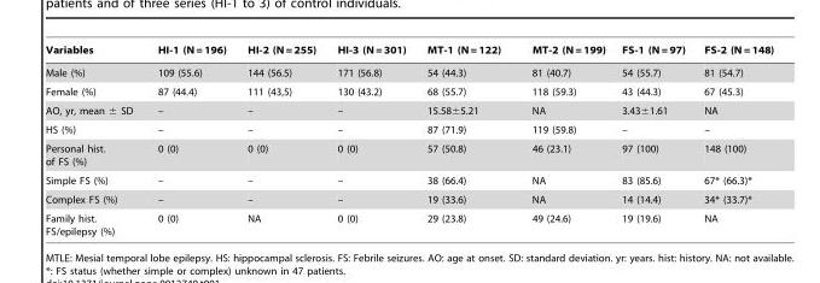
<table><thead><tr><td>Variables</td><td>HI-1 (N = 196)</td><td>HI-2 (N = 255)</td><td>HI-3 (N = 301)</td><td>MT-1 (N = 122)</td><td>MT-2 (N = 199)</td><td>FS-1 (N = 97)</td><td>FS-2 (N = 148)</td></tr></thead><tbody><tr><td>Male (%)</td><td>109 (55.6)</td><td>144 (56.5)</td><td>171 (56.8)</td><td>54 (44.3)</td><td>81 (40.7)</td><td>54 (55.7)</td><td>81 (54.7)</td></tr><tr><td>Female (%)</td><td>87 (44.4)</td><td>111 (43,5)</td><td>130 (43.2)</td><td>68 (55.7)</td><td>118 (59.3)</td><td>43 (44.3)</td><td>67 (45.3)</td></tr><tr><td>AO, yr, mean ± SD</td><td>–</td><td>–</td><td>–</td><td>15.58±5.21</td><td>NA</td><td>3.43±1.61</td><td>NA</td></tr><tr><td>HS (%)</td><td>–</td><td>–</td><td>–</td><td>87 (71.9)</td><td>119 (59.8)</td><td>–</td><td>–</td></tr><tr><td>Personal hist. of FS (%)</td><td>0 (0)</td><td>0 (0)</td><td>0 (0)</td><td>57 (50.8)</td><td>46 (23.1)</td><td>97 (100)</td><td>148 (100)</td></tr><tr><td>Simple FS (%)</td><td>–</td><td>–</td><td>–</td><td>38 (66.4)</td><td>NA</td><td>83 (85.6)</td><td>67* (66.3)*</td></tr><tr><td>Complex FS (%)</td><td>–</td><td>–</td><td>–</td><td>19 (33.6)</td><td>NA</td><td>14 (14.4)</td><td>34* (33.7)*</td></tr><tr><td>Family hist. FS/epilepsy (%)</td><td>0 (0)</td><td>NA</td><td>0 (0)</td><td>29 (23.8)</td><td>49 (24.6)</td><td>19 (19.6)</td><td>NA</td></tr></tbody></table>